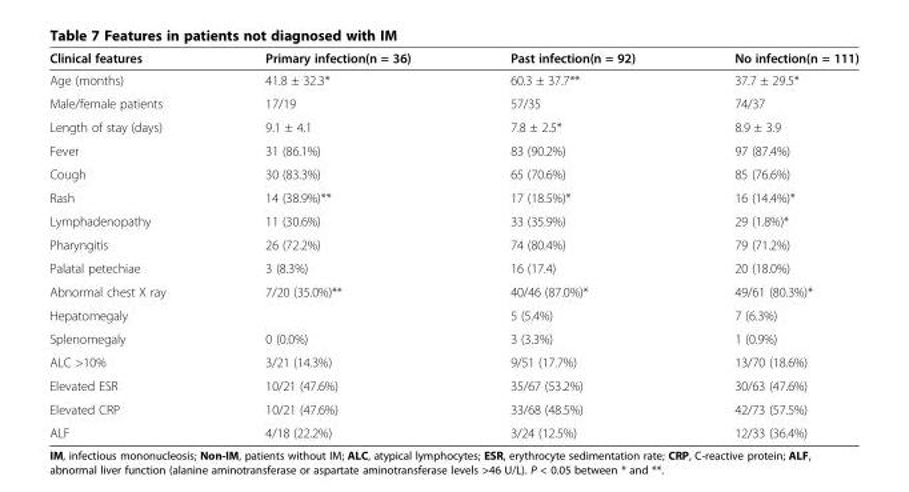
<table><thead><tr><td>Clinical features</td><td>Primary infection(n = 36)</td><td>Past infection(n = 92)</td><td>No infection(n = 111)</td></tr></thead><tbody><tr><td>Age (months)</td><td>41.8 ± 32.3*</td><td>60.3 ± 37.7**</td><td>37.7 ± 29.5*</td></tr><tr><td>Male/female patients</td><td>17/19</td><td>57/35</td><td>74/37</td></tr><tr><td>Length of stay (days)</td><td>9.1 ± 4.1</td><td>7.8 ± 2.5*</td><td>8.9 ± 3.9</td></tr><tr><td>Fever</td><td>31 (86.1%)</td><td>83 (90.2%)</td><td>97 (87.4%)</td></tr><tr><td>Cough</td><td>30 (83.3%)</td><td>65 (70.6%)</td><td>85 (76.6%)</td></tr><tr><td>Rash</td><td>14 (38.9%)**</td><td>17 (18.5%)*</td><td>16 (14.4%)*</td></tr><tr><td>Lymphadenopathy</td><td>11 (30.6%)</td><td>33 (35.9%)</td><td>29 (1.8%)*</td></tr><tr><td>Pharyngitis</td><td>26 (72.2%)</td><td>74 (80.4%)</td><td>79 (71.2%)</td></tr><tr><td>Palatal petechiae</td><td>3 (8.3%)</td><td>16 (17.4)</td><td>20 (18.0%)</td></tr><tr><td>Abnormal chest X ray</td><td>7/20 (35.0%)**</td><td>40/46 (87.0%)*</td><td>49/61 (80.3%)*</td></tr><tr><td>Hepatomegaly</td><td></td><td>5 (5.4%)</td><td>7 (6.3%)</td></tr><tr><td>Splenomegaly</td><td>0 (0.0%)</td><td>3 (3.3%)</td><td>1 (0.9%)</td></tr><tr><td>ALC &gt;10%</td><td>3/21 (14.3%)</td><td>9/51 (17.7%)</td><td>13/70 (18.6%)</td></tr><tr><td>Elevated ESR</td><td>10/21 (47.6%)</td><td>35/67 (53.2%)</td><td>30/63 (47.6%)</td></tr><tr><td>Elevated CRP</td><td>10/21 (47.6%)</td><td>33/68 (48.5%)</td><td>42/73 (57.5%)</td></tr><tr><td>ALF</td><td>4/18 (22.2%)</td><td>3/24 (12.5%)</td><td>12/33 (36.4%)</td></tr></tbody></table>